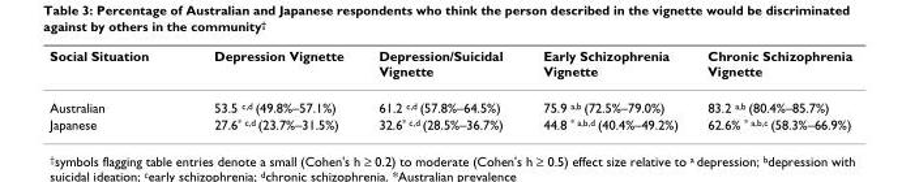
<table><thead><tr><td>Social Situation</td><td>Depression Vignette</td><td>Depression/Suicidal Vignette</td><td>Early Schizophrenia Vignette</td><td>Chronic Schizophrenia Vignette</td></tr></thead><tbody><tr><td>Australian</td><td>53.5 <sup>c,d</sup> (49.8%–57.1%)</td><td>61.2 <sup>c,d</sup> (57.8%–64.5%)</td><td>75.9 <sup>a,b</sup> (72.5%–79.0%)</td><td>83.2 <sup>a,b</sup> (80.4%–85.7%)</td></tr><tr><td>Japanese</td><td>27.6<sup>* c,d</sup> (23.7%–31.5%)</td><td>32.6<sup>* c,d</sup> (28.5%–36.7%)</td><td>44.8 <sup>* a,b,d</sup> (40.4%–49.2%)</td><td>62.6% <sup>* a,b,c</sup> (58.3%–66.9%)</td></tr></tbody></table>